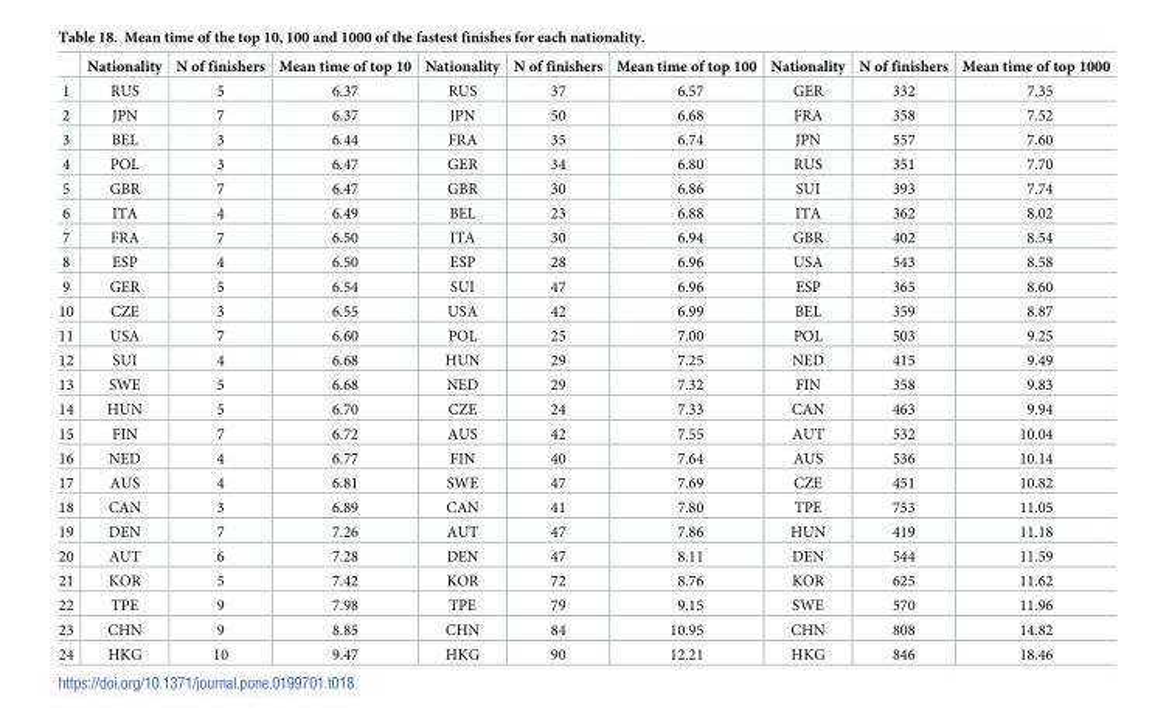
<table><thead><tr><td></td><td>Nationality</td><td>N of finishers</td><td>Mean time of top 10</td><td>Nationality</td><td>N of finishers</td><td>Mean time of top 100</td><td>Nationality</td><td>N of finishers</td><td>Mean time of top 1000</td></tr></thead><tbody><tr><td>1</td><td>RUS</td><td>5</td><td>6.37</td><td>RUS</td><td>37</td><td>6.57</td><td>GER</td><td>332</td><td>7.35</td></tr><tr><td>2</td><td>JPN</td><td>7</td><td>6.37</td><td>JPN</td><td>50</td><td>6.68</td><td>FRA</td><td>358</td><td>7.52</td></tr><tr><td>3</td><td>BEL</td><td>3</td><td>6.44</td><td>FRA</td><td>35</td><td>6.74</td><td>JPN</td><td>557</td><td>7.60</td></tr><tr><td>4</td><td>POL</td><td>3</td><td>6.47</td><td>GER</td><td>34</td><td>6.80</td><td>RUS</td><td>351</td><td>7.70</td></tr><tr><td>5</td><td>GBR</td><td>7</td><td>6.47</td><td>GBR</td><td>30</td><td>6.86</td><td>SUI</td><td>393</td><td>7.74</td></tr><tr><td>6</td><td>ITA</td><td>4</td><td>6.49</td><td>BEL</td><td>23</td><td>6.88</td><td>ITA</td><td>362</td><td>8.02</td></tr><tr><td>7</td><td>FRA</td><td>7</td><td>6.50</td><td>ITA</td><td>30</td><td>6.94</td><td>GBR</td><td>402</td><td>8.54</td></tr><tr><td>8</td><td>ESP</td><td>4</td><td>6.50</td><td>ESP</td><td>28</td><td>6.96</td><td>USA</td><td>543</td><td>8.58</td></tr><tr><td>9</td><td>GER</td><td>5</td><td>6.54</td><td>SUI</td><td>47</td><td>6.96</td><td>ESP</td><td>365</td><td>8.60</td></tr><tr><td>10</td><td>CZE</td><td>3</td><td>6.55</td><td>USA</td><td>42</td><td>6.99</td><td>BEL</td><td>359</td><td>8.87</td></tr><tr><td>11</td><td>USA</td><td>7</td><td>6.60</td><td>POL</td><td>25</td><td>7.00</td><td>POL</td><td>503</td><td>9.25</td></tr><tr><td>12</td><td>SUI</td><td>4</td><td>6.68</td><td>HUN</td><td>29</td><td>7.25</td><td>NED</td><td>415</td><td>9.49</td></tr><tr><td>13</td><td>SWE</td><td>5</td><td>6.68</td><td>NED</td><td>29</td><td>7.32</td><td>FIN</td><td>358</td><td>9.83</td></tr><tr><td>14</td><td>HUN</td><td>5</td><td>6.70</td><td>CZE</td><td>24</td><td>7.33</td><td>CAN</td><td>463</td><td>9.94</td></tr><tr><td>15</td><td>FIN</td><td>7</td><td>6.72</td><td>AUS</td><td>42</td><td>7.55</td><td>AUT</td><td>532</td><td>10.04</td></tr><tr><td>16</td><td>NED</td><td>4</td><td>6.77</td><td>FIN</td><td>40</td><td>7.64</td><td>AUS</td><td>536</td><td>10.14</td></tr><tr><td>17</td><td>AUS</td><td>4</td><td>6.81</td><td>SWE</td><td>47</td><td>7.69</td><td>CZE</td><td>451</td><td>10.82</td></tr><tr><td>18</td><td>CAN</td><td>3</td><td>6.89</td><td>CAN</td><td>41</td><td>7.80</td><td>TPE</td><td>753</td><td>11.05</td></tr><tr><td>19</td><td>DEN</td><td>7</td><td>7.26</td><td>AUT</td><td>47</td><td>7.86</td><td>HUN</td><td>419</td><td>11.18</td></tr><tr><td>20</td><td>AUT</td><td>6</td><td>7.28</td><td>DEN</td><td>47</td><td>8.11</td><td>DEN</td><td>544</td><td>11.59</td></tr><tr><td>21</td><td>KOR</td><td>5</td><td>7.42</td><td>KOR</td><td>72</td><td>8.76</td><td>KOR</td><td>625</td><td>11.62</td></tr><tr><td>22</td><td>TPE</td><td>9</td><td>7.98</td><td>TPE</td><td>79</td><td>9.15</td><td>SWE</td><td>570</td><td>11.96</td></tr><tr><td>23</td><td>CHN</td><td>9</td><td>8.85</td><td>CHN</td><td>84</td><td>10.95</td><td>CHN</td><td>808</td><td>14.82</td></tr><tr><td>24</td><td>HKG</td><td>10</td><td>9.47</td><td>HKG</td><td>90</td><td>12.21</td><td>HKG</td><td>846</td><td>18.46</td></tr></tbody></table>